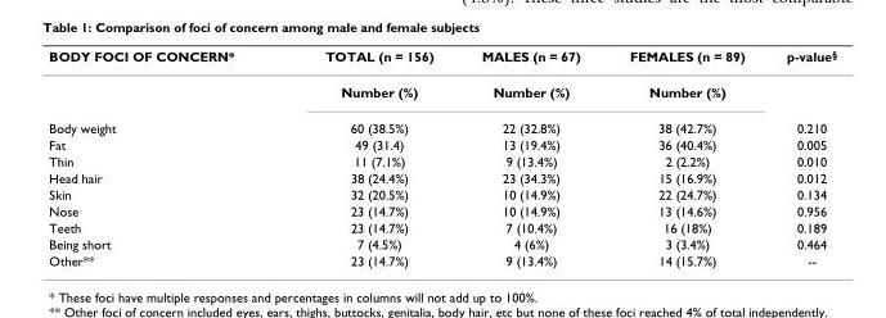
<table><thead><tr><td>BODY FOCI OF CONCERN*</td><td>TOTAL (n = 156)</td><td>MALES (n = 67)</td><td>FEMALES (n = 89)</td><td>p-value<sup>§</sup></td></tr></thead><tbody><tr><td></td><td>Number (%)</td><td>Number (%)</td><td>Number (%)</td><td></td></tr><tr><td>Body weight</td><td>60 (38.5%)</td><td>22 (32.8%)</td><td>38 (42.7%)</td><td>0.210</td></tr><tr><td>Fat</td><td>49 (31.4)</td><td>13 (19.4%)</td><td>36 (40.4%)</td><td>0.005</td></tr><tr><td>Thin</td><td>11 (7.1%)</td><td>9 (13.4%)</td><td>2 (2.2%)</td><td>0.010</td></tr><tr><td>Head hair</td><td>38 (24.4%)</td><td>23 (34.3%)</td><td>15 (16.9%)</td><td>0.012</td></tr><tr><td>Skin</td><td>32 (20.5%)</td><td>10 (14.9%)</td><td>22 (24.7%)</td><td>0.134</td></tr><tr><td>Nose</td><td>23 (14.7%)</td><td>10 (14.9%)</td><td>13 (14.6%)</td><td>0.956</td></tr><tr><td>Teeth</td><td>23 (14.7%)</td><td>7 (10.4%)</td><td>16 (18%)</td><td>0.189</td></tr><tr><td>Being short</td><td>7 (4.5%)</td><td>4 (6%)</td><td>3 (3.4%)</td><td>0.464</td></tr><tr><td>Other**</td><td>23 (14.7%)</td><td>9 (13.4%)</td><td>14 (15.7%)</td><td>--</td></tr></tbody></table>